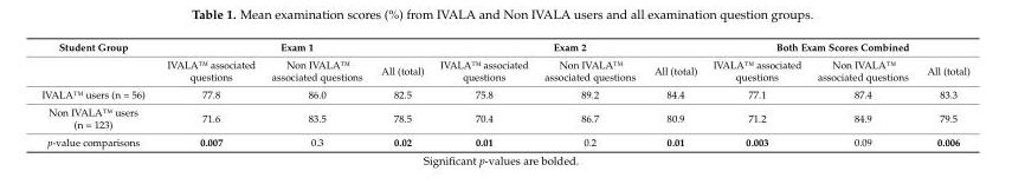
<table><thead><tr><td rowspan="2">Student Group</td><td colspan="3">Exam 1</td><td colspan="3">Exam 2</td><td colspan="3">Both Exam Scores Combined</td></tr><tr><td>IVALA™ associated questions</td><td>Non IVALA™ associated questions</td><td>All (total)</td><td>IVALA™ associated questions</td><td>Non IVALA™ associated questions</td><td>All (total)</td><td>IVALA™ associated questions</td><td>Non IVALA™ associated questions</td><td>All (total)</td></tr></thead><tbody><tr><td>IVALA™ users (n = 56)</td><td>77.8</td><td>86.0</td><td>82.5</td><td>75.8</td><td>89.2</td><td>84.4</td><td>77.1</td><td>87.4</td><td>83.3</td></tr><tr><td>Non IVALA™ users (n = 123)</td><td>71.6</td><td>83.5</td><td>78.5</td><td>70.4</td><td>86.7</td><td>80.9</td><td>71.2</td><td>84.9</td><td>79.5</td></tr><tr><td>p-value comparisons</td><td>0.007</td><td>0.3</td><td>0.02</td><td>0.01</td><td>0.2</td><td>0.01</td><td>0.003</td><td>0.09</td><td>0.006</td></tr></tbody></table>